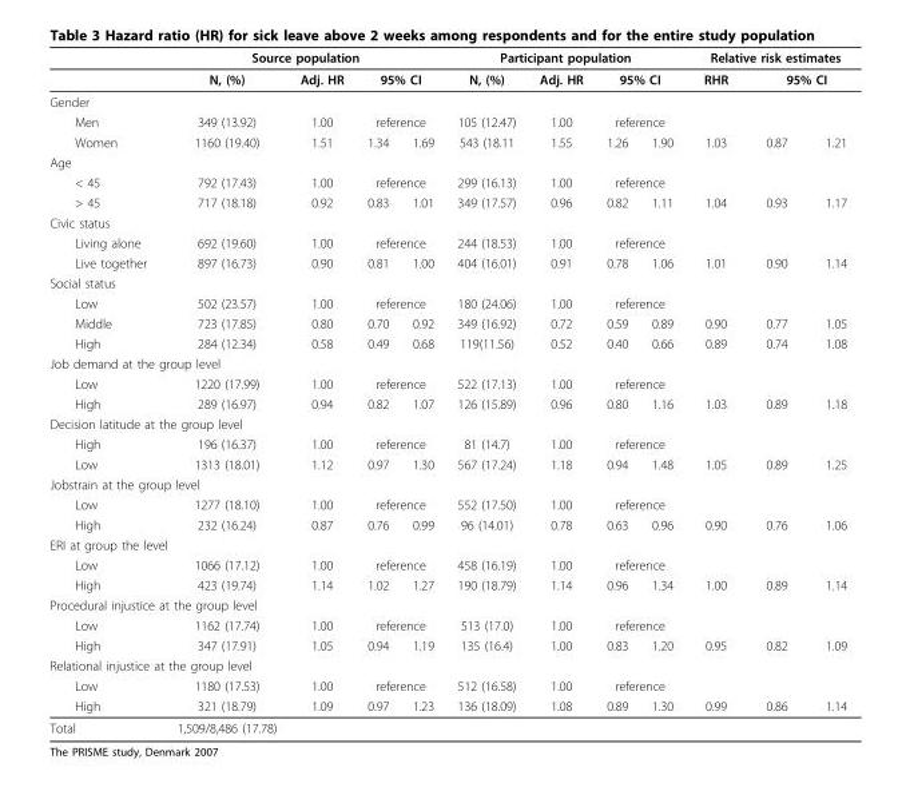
<table><thead><tr><td></td><td colspan="4">Source population</td><td colspan="4">Participant population</td><td colspan="3">Relative risk estimates</td></tr></thead><tbody><tr><td></td><td>N, (%)</td><td>Adj. HR</td><td colspan="2">95% CI</td><td>N, (%)</td><td>Adj. HR</td><td colspan="2">95% CI</td><td>RHR</td><td colspan="2">95% CI</td></tr><tr><td colspan="12">Gender</td></tr><tr><td>Men</td><td>349 (13.92)</td><td>1.00</td><td colspan="2">reference</td><td>105 (12.47)</td><td>1.00</td><td colspan="2">reference</td><td></td><td></td><td></td></tr><tr><td>Women</td><td>1160 (19.40)</td><td>1.51</td><td>1.34</td><td>1.69</td><td>543 (18.11</td><td>1.55</td><td>1.26</td><td>1.90</td><td>1.03</td><td>0.87</td><td>1.21</td></tr><tr><td colspan="12">Age</td></tr><tr><td>&lt; 45</td><td>792 (17.43)</td><td>1.00</td><td colspan="2">reference</td><td>299 (16.13)</td><td>1.00</td><td colspan="2">reference</td><td></td><td></td><td></td></tr><tr><td>&gt; 45</td><td>717 (18.18)</td><td>0.92</td><td>0.83</td><td>1.01</td><td>349 (17.57)</td><td>0.96</td><td>0.82</td><td>1.11</td><td>1.04</td><td>0.93</td><td>1.17</td></tr><tr><td colspan="12">Civic status</td></tr><tr><td>Living alone</td><td>692 (19.60)</td><td>1.00</td><td colspan="2">reference</td><td>244 (18.53)</td><td>1.00</td><td colspan="2">reference</td><td></td><td></td><td></td></tr><tr><td>Live together</td><td>897 (16.73)</td><td>0.90</td><td>0.81</td><td>1.00</td><td>404 (16.01)</td><td>0.91</td><td>0.78</td><td>1.06</td><td>1.01</td><td>0.90</td><td>1.14</td></tr><tr><td colspan="12">Social status</td></tr><tr><td>Low</td><td>502 (23.57)</td><td>1.00</td><td colspan="2">reference</td><td>180 (24.06)</td><td>1.00</td><td colspan="2">reference</td><td></td><td></td><td></td></tr><tr><td>Middle</td><td>723 (17.85)</td><td>0.80</td><td>0.70</td><td>0.92</td><td>349 (16.92)</td><td>0.72</td><td>0.59</td><td>0.89</td><td>0.90</td><td>0.77</td><td>1.05</td></tr><tr><td>High</td><td>284 (12.34)</td><td>0.58</td><td>0.49</td><td>0.68</td><td>119(11.56)</td><td>0.52</td><td>0.40</td><td>0.66</td><td>0.89</td><td>0.74</td><td>1.08</td></tr><tr><td colspan="12">Job demand at the group level</td></tr><tr><td>Low</td><td>1220 (17.99)</td><td>1.00</td><td colspan="2">reference</td><td>522 (17.13)</td><td>1.00</td><td colspan="2">reference</td><td></td><td></td><td></td></tr><tr><td>High</td><td>289 (16.97)</td><td>0.94</td><td>0.82</td><td>1.07</td><td>126 (15.89)</td><td>0.96</td><td>0.80</td><td>1.16</td><td>1.03</td><td>0.89</td><td>1.18</td></tr><tr><td colspan="12">Decision latitude at the group level</td></tr><tr><td>High</td><td>196 (16.37)</td><td>1.00</td><td colspan="2">reference</td><td>81 (14.7)</td><td>1.00</td><td colspan="2">reference</td><td></td><td></td><td></td></tr><tr><td>Low</td><td>1313 (18.01)</td><td>1.12</td><td>0.97</td><td>1.30</td><td>567 (17.24)</td><td>1.18</td><td>0.94</td><td>1.48</td><td>1.05</td><td>0.89</td><td>1.25</td></tr><tr><td colspan="12">Jobstrain at the group level</td></tr><tr><td>Low</td><td>1277 (18.10)</td><td>1.00</td><td colspan="2">reference</td><td>552 (17.50)</td><td>1.00</td><td colspan="2">reference</td><td></td><td></td><td></td></tr><tr><td>High</td><td>232 (16.24)</td><td>0.87</td><td>0.76</td><td>0.99</td><td>96 (14.01)</td><td>0.78</td><td>0.63</td><td>0.96</td><td>0.90</td><td>0.76</td><td>1.06</td></tr><tr><td colspan="12">ERI at group the level</td></tr><tr><td>Low</td><td>1066 (17.12)</td><td>1.00</td><td colspan="2">reference</td><td>458 (16.19)</td><td>1.00</td><td colspan="2">reference</td><td></td><td></td><td></td></tr><tr><td>High</td><td>423 (19.74)</td><td>1.14</td><td>1.02</td><td>1.27</td><td>190 (18.79)</td><td>1.14</td><td>0.96</td><td>1.34</td><td>1.00</td><td>0.89</td><td>1.14</td></tr><tr><td colspan="12">Procedural injustice at the group level</td></tr><tr><td>Low</td><td>1162 (17.74)</td><td>1.00</td><td colspan="2">reference</td><td>513 (17.0)</td><td>1.00</td><td colspan="2">reference</td><td></td><td></td><td></td></tr><tr><td>High</td><td>347 (17.91)</td><td>1.05</td><td>0.94</td><td>1.19</td><td>135 (16.4)</td><td>1.00</td><td>0.83</td><td>1.20</td><td>0.95</td><td>0.82</td><td>1.09</td></tr><tr><td colspan="12">Relational injustice at the group level</td></tr><tr><td>Low</td><td>1180 (17.53)</td><td>1.00</td><td colspan="2">reference</td><td>512 (16.58)</td><td>1.00</td><td colspan="2">reference</td><td></td><td></td><td></td></tr><tr><td>High</td><td>321 (18.79)</td><td>1.09</td><td>0.97</td><td>1.23</td><td>136 (18.09)</td><td>1.08</td><td>0.89</td><td>1.30</td><td>0.99</td><td>0.86</td><td>1.14</td></tr><tr><td>Total</td><td>1,509/8,486 (17.78)</td><td></td><td></td><td></td><td></td><td></td><td></td><td></td><td></td><td></td><td></td></tr></tbody></table>